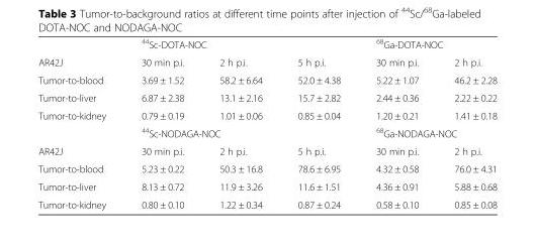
<table><thead><tr><td rowspan="2">AR42J</td><td colspan="3"><sup>44</sup>Sc-DOTA-NOC</td><td colspan="2"><sup>68</sup>Ga-DOTA-NOC</td></tr><tr><td>30 min p.i.</td><td>2 h p.i.</td><td>5 h p.i.</td><td>30 min p.i.</td><td>2 h p.i.</td></tr></thead><tbody><tr><td>Tumor-to-blood</td><td>3.69 ± 1.52</td><td>58.2 ± 6.64</td><td>52.0 ± 4.38</td><td>5.22 ± 1.07</td><td>46.2 ± 2.28</td></tr><tr><td>Tumor-to-liver</td><td>6.87 ± 2.38</td><td>13.1 ± 2.16</td><td>15.7 ± 2.82</td><td>2.44 ± 0.36</td><td>2.22 ± 0.22</td></tr><tr><td rowspan="2">Tumor-to-kidney</td><td>0.79 ± 0.19</td><td>1.01 ± 0.06</td><td>0.85 ± 0.04</td><td>1.20 ± 0.21</td><td>1.41 ± 0.18</td></tr><tr><td colspan="3"><sup>44</sup>Sc-NODAGA-NOC</td><td colspan="2"><sup>68</sup>Ga-NODAGA-NOC</td></tr><tr><td>AR42J</td><td>30 min p.i.</td><td>2 h p.i.</td><td>5 h p.i.</td><td>30 min p.i.</td><td>2 h p.i.</td></tr><tr><td>Tumor-to-blood</td><td>5.23 ± 0.22</td><td>50.3 ± 16.8</td><td>78.6 ± 6.95</td><td>4.32 ± 0.58</td><td>76.0 ± 4.31</td></tr><tr><td>Tumor-to-liver</td><td>8.13 ± 0.72</td><td>11.9 ± 3.26</td><td>11.6 ± 1.51</td><td>4.36 ± 0.91</td><td>5.88 ± 0.68</td></tr><tr><td>Tumor-to-kidney</td><td>0.80 ± 0.10</td><td>1.22 ± 0.34</td><td>0.87 ± 0.24</td><td>0.58 ± 0.10</td><td>0.85 ± 0.08</td></tr></tbody></table>